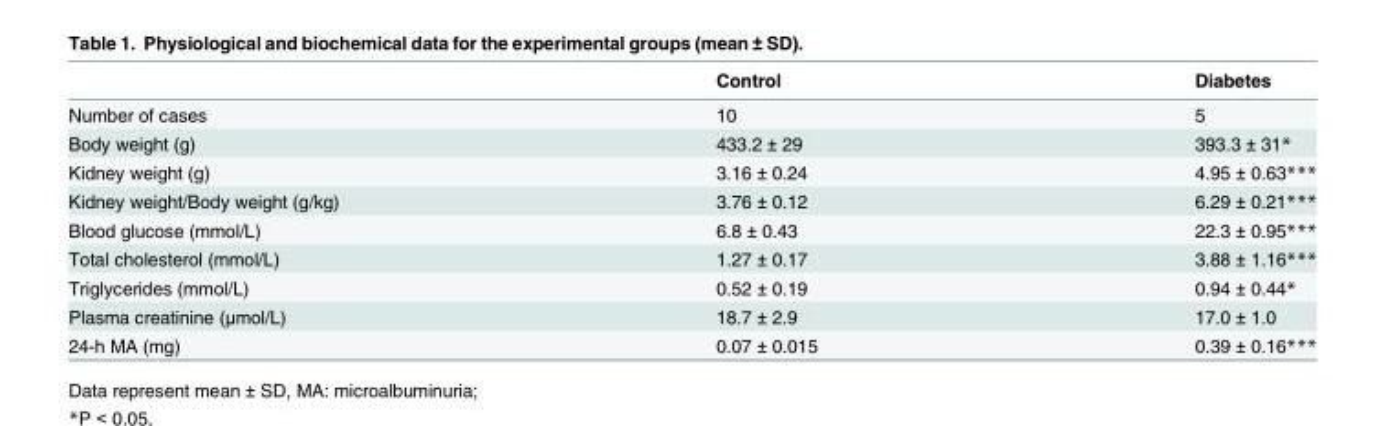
<table><thead><tr><td></td><td>Control</td><td>Diabetes</td></tr></thead><tbody><tr><td>Number of cases</td><td>10</td><td>5</td></tr><tr><td>Body weight (g)</td><td>433.2 ± 29</td><td>393.3 ± 31*</td></tr><tr><td>Kidney weight (g)</td><td>3.16 ± 0.24</td><td>4.95 ± 0.63***</td></tr><tr><td>Kidney weight/Body weight (g/kg)</td><td>3.76 ± 0.12</td><td>6.29 ± 0.21***</td></tr><tr><td>Blood glucose (mmol/L)</td><td>6.8 ± 0.43</td><td>22.3 ± 0.95***</td></tr><tr><td>Total cholesterol (mmol/L)</td><td>1.27 ± 0.17</td><td>3.88 ± 1.16***</td></tr><tr><td>Triglycerides (mmol/L)</td><td>0.52 ± 0.19</td><td>0.94 ± 0.44*</td></tr><tr><td>Plasma creatinine (μmol/L)</td><td>18.7 ± 2.9</td><td>17.0 ± 1.0</td></tr><tr><td>24-h MA (mg)</td><td>0.07 ± 0.015</td><td>0.39 ± 0.16***</td></tr></tbody></table>